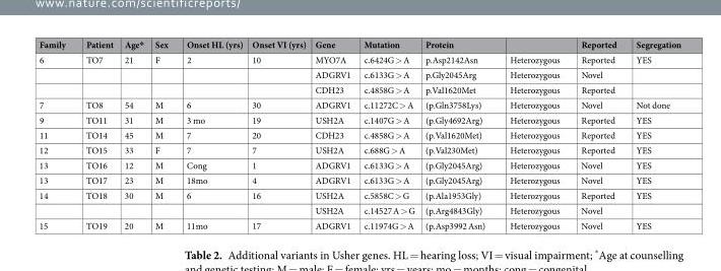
<table><thead><tr><td>Family</td><td>Patient</td><td>Age*</td><td>Sex</td><td>Onset HL (yrs)</td><td>Onset VI (yrs)</td><td>Gene</td><td>Mutation</td><td>Protein</td><td></td><td>Reported</td><td>Segregation</td></tr></thead><tbody><tr><td rowspan="3">6</td><td>TO7</td><td>21</td><td>F</td><td>2</td><td>10</td><td>MYO7A</td><td>c.6424G &gt; A</td><td>p.Asp2142Asn</td><td>Heterozygous</td><td>Reported</td><td>YES</td></tr><tr><td></td><td></td><td></td><td></td><td></td><td>ADGRV1</td><td>c.6133G &gt; A</td><td>p.Gly2045Arg</td><td>Heterozygous</td><td>Novel</td><td></td></tr><tr><td></td><td></td><td></td><td></td><td></td><td>CDH23</td><td>c.4858G &gt; A</td><td>p.Val1620Met</td><td>Heterozygous</td><td>Reported</td><td></td></tr><tr><td>7</td><td>TO8</td><td>54</td><td>M</td><td>6</td><td>30</td><td>ADGRV1</td><td>c.11272C &gt; A</td><td>(p.Gln3758Lys)</td><td>Heterozygous</td><td>Novel</td><td>Not done</td></tr><tr><td>9</td><td>TO11</td><td>31</td><td>M</td><td>3 mo</td><td>19</td><td>USH2A</td><td>c.1407G &gt; A</td><td>(p.Gly4692Arg)</td><td>Heterozygous</td><td>Reported</td><td>YES</td></tr><tr><td>11</td><td>TO14</td><td>45</td><td>M</td><td>7</td><td>20</td><td>CDH23</td><td>c.4858G &gt; A</td><td>(p.Val1620Met)</td><td>Heterozygous</td><td>Reported</td><td>YES</td></tr><tr><td>12</td><td>TO15</td><td>33</td><td>F</td><td>7</td><td>7</td><td>USH2A</td><td>c.688G &gt; A</td><td>(p.Val230Met)</td><td>Heterozygous</td><td>Reported</td><td>YES</td></tr><tr><td>13</td><td>TO16</td><td>12</td><td>M</td><td>Cong</td><td>1</td><td>ADGRV1</td><td>c.6133G &gt; A</td><td>(p.Gly2045Arg)</td><td>Heterozygous</td><td>Novel</td><td>YES</td></tr><tr><td>13</td><td>TO17</td><td>23</td><td>M</td><td>18mo</td><td>4</td><td>ADGRV1</td><td>c.6133G &gt; A</td><td>(p.Gly2045Arg)</td><td>Heterozygous</td><td>Novel</td><td>YES</td></tr><tr><td rowspan="2">14</td><td>TO18</td><td>30</td><td>M</td><td>6</td><td>16</td><td>USH2A</td><td>c.5858C &gt; G</td><td>(p.Ala1953Gly)</td><td>Heterozygous</td><td>Reported</td><td>YES</td></tr><tr><td></td><td></td><td></td><td></td><td></td><td>USH2A</td><td>c.14527 A &gt; G</td><td>(p.Arg4843Gly)</td><td>Heterozygous</td><td>Novel</td><td></td></tr><tr><td>15</td><td>TO19</td><td>20</td><td>M</td><td>11mo</td><td>17</td><td>ADGRV1</td><td>c.11974G &gt; A</td><td>(p.Asp3992 Asn)</td><td>Heterozygous</td><td>Novel</td><td>YES</td></tr></tbody></table>